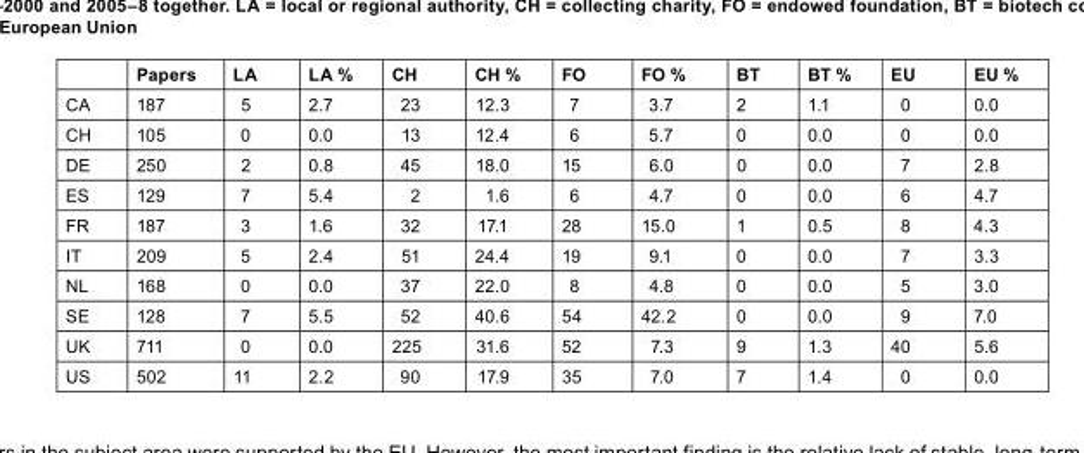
<table><thead><tr><td></td><td>Papers</td><td>LA</td><td>LA %</td><td>CH</td><td>CH %</td><td>FO</td><td>FO %</td><td>BT</td><td>BT %</td><td>EU</td><td>EU %</td></tr></thead><tbody><tr><td>CA</td><td>187</td><td>5</td><td>2.7</td><td>23</td><td>12.3</td><td>7</td><td>3.7</td><td>2</td><td>1.1</td><td>0</td><td>0.0</td></tr><tr><td>CH</td><td>105</td><td>0</td><td>0.0</td><td>13</td><td>12.4</td><td>6</td><td>5.7</td><td>0</td><td>0.0</td><td>0</td><td>0.0</td></tr><tr><td>DE</td><td>250</td><td>2</td><td>0.8</td><td>45</td><td>18.0</td><td>15</td><td>6.0</td><td>0</td><td>0.0</td><td>7</td><td>2.8</td></tr><tr><td>ES</td><td>129</td><td>7</td><td>5.4</td><td>2</td><td>1.6</td><td>6</td><td>4.7</td><td>0</td><td>0.0</td><td>6</td><td>4.7</td></tr><tr><td>FR</td><td>187</td><td>3</td><td>1.6</td><td>32</td><td>17.1</td><td>28</td><td>15.0</td><td>1</td><td>0.5</td><td>8</td><td>4.3</td></tr><tr><td>IT</td><td>209</td><td>5</td><td>2.4</td><td>51</td><td>24.4</td><td>19</td><td>9.1</td><td>0</td><td>0.0</td><td>7</td><td>3.3</td></tr><tr><td>NL</td><td>168</td><td>0</td><td>0.0</td><td>37</td><td>22.0</td><td>8</td><td>4.8</td><td>0</td><td>0.0</td><td>5</td><td>3.0</td></tr><tr><td>SE</td><td>128</td><td>7</td><td>5.5</td><td>52</td><td>40.6</td><td>54</td><td>42.2</td><td>0</td><td>0.0</td><td>9</td><td>7.0</td></tr><tr><td>UK</td><td>711</td><td>0</td><td>0.0</td><td>225</td><td>31.6</td><td>52</td><td>7.3</td><td>9</td><td>1.3</td><td>40</td><td>5.6</td></tr><tr><td>US</td><td>502</td><td>11</td><td>2.2</td><td>90</td><td>17.9</td><td>35</td><td>7.0</td><td>7</td><td>1.4</td><td>0</td><td>0.0</td></tr></tbody></table>